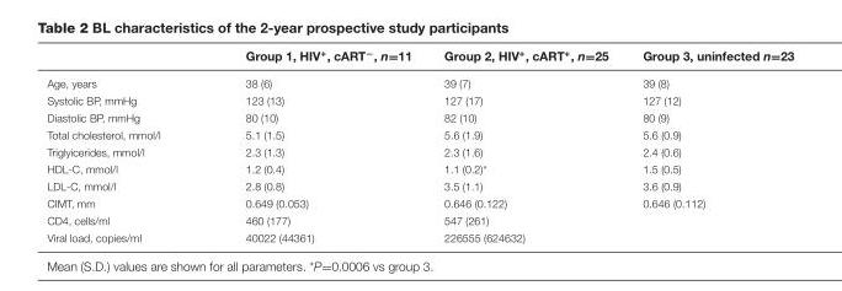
<table><thead><tr><td></td><td>Group 1, HIV<sup>+</sup>, cART<sup>−</sup>, n=11</td><td>Group 2, HIV<sup>+</sup>, cART<sup>+</sup>, n=25</td><td>Group 3, uninfected n=23</td></tr></thead><tbody><tr><td>Age, years</td><td>38 (6)</td><td>39 (7)</td><td>39 (8)</td></tr><tr><td>Systolic BP, mmHg</td><td>123 (13)</td><td>127 (17)</td><td>127 (12)</td></tr><tr><td>Diastolic BP, mmHg</td><td>80 (10)</td><td>82 (10)</td><td>80 (9)</td></tr><tr><td>Total cholesterol, mmol/l</td><td>5.1 (1.5)</td><td>5.6 (1.9)</td><td>5.6 (0.9)</td></tr><tr><td>Triglyicerides, mmol/l</td><td>2.3 (1.3)</td><td>2.3 (1.6)</td><td>2.4 (0.6)</td></tr><tr><td>HDL-C, mmol/l</td><td>1.2 (0.4)</td><td>1.1 (0.2)*</td><td>1.5 (0.5)</td></tr><tr><td>LDL-C, mmol/l</td><td>2.8 (0.8)</td><td>3.5 (1.1)</td><td>3.6 (0.9)</td></tr><tr><td>CIMT, mm</td><td>0.649 (0.053)</td><td>0.646 (0.122)</td><td>0.646 (0.112)</td></tr><tr><td>CD4, cells/ml</td><td>460 (177)</td><td>547 (261)</td><td></td></tr><tr><td>Viral load, copies/ml</td><td>40022 (44361)</td><td>226555 (624632)</td><td></td></tr></tbody></table>